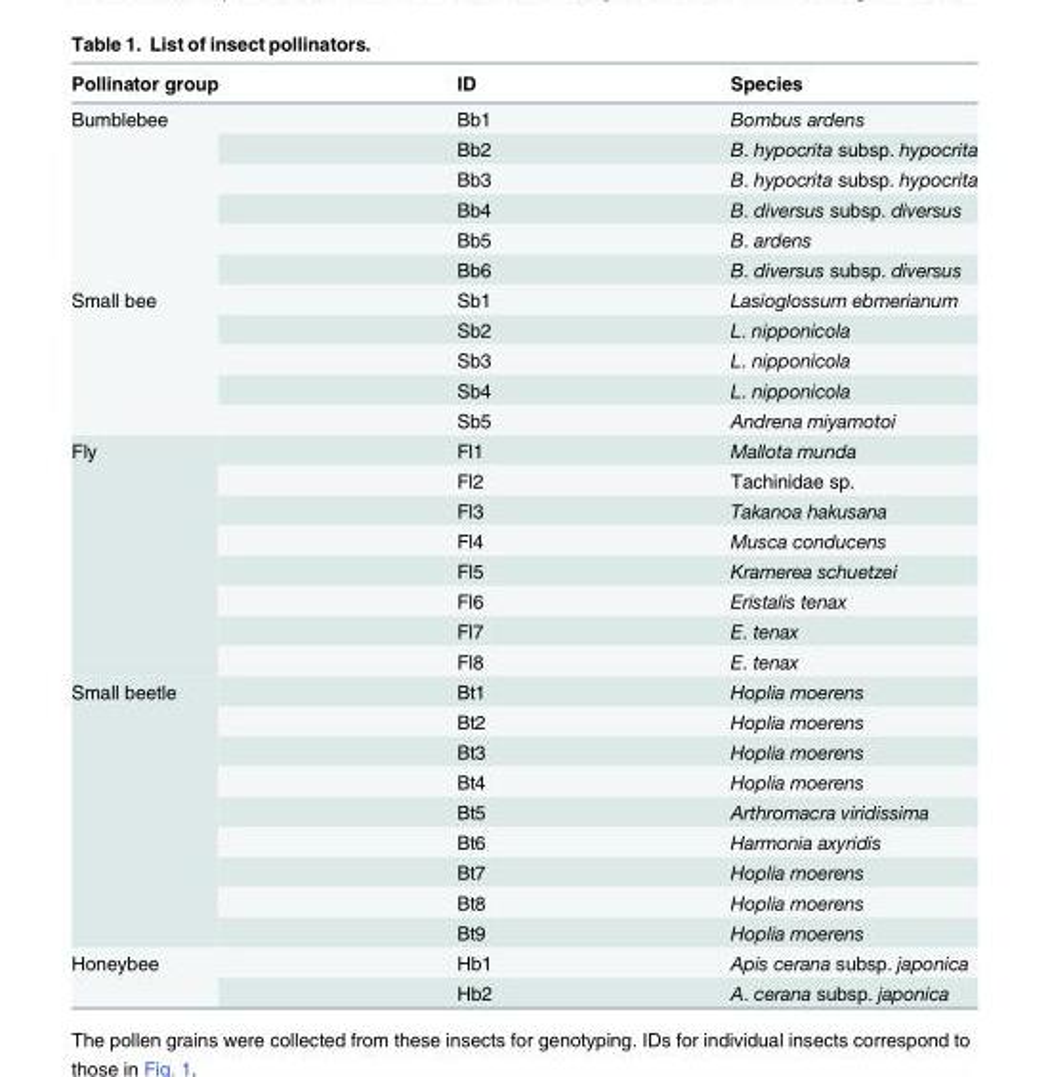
<table><thead><tr><td>Pollinator group</td><td>ID</td><td>Species</td></tr></thead><tbody><tr><td rowspan="6">Bumblebee</td><td>Bb1</td><td>Bombus ardens</td></tr><tr><td>Bb2</td><td>B. hypocrita subsp. hypocrita</td></tr><tr><td>Bb3</td><td>B. hypocrita subsp. hypocrita</td></tr><tr><td>Bb4</td><td>B. diversus subsp. diversus</td></tr><tr><td>Bb5</td><td>B. ardens</td></tr><tr><td>Bb6</td><td>B. diversus subsp. diversus</td></tr><tr><td rowspan="5">Small bee</td><td>Sb1</td><td>Lasioglossum ebmerianum</td></tr><tr><td>Sb2</td><td>L. nipponicola</td></tr><tr><td>Sb3</td><td>L. nipponicola</td></tr><tr><td>Sb4</td><td>L. nipponicola</td></tr><tr><td>Sb5</td><td>Andrena miyamotoi</td></tr><tr><td rowspan="8">Fly</td><td>Fl1</td><td>Mallota munda</td></tr><tr><td>Fl2</td><td>Tachinidae sp.</td></tr><tr><td>Fl3</td><td>Takanoa hakusana</td></tr><tr><td>Fl4</td><td>Musca conducens</td></tr><tr><td>Fl5</td><td>Kramerea schuetzei</td></tr><tr><td>Fl6</td><td>Eristalis tenax</td></tr><tr><td>Fl7</td><td>E. tenax</td></tr><tr><td>Fl8</td><td>E. tenax</td></tr><tr><td rowspan="9">Small beetle</td><td>Bt1</td><td>Hoplia moerens</td></tr><tr><td>Bt2</td><td>Hoplia moerens</td></tr><tr><td>Bt3</td><td>Hoplia moerens</td></tr><tr><td>Bt4</td><td>Hoplia moerens</td></tr><tr><td>Bt5</td><td>Arthromacra viridissima</td></tr><tr><td>Bt6</td><td>Harmonia axyridis</td></tr><tr><td>Bt7</td><td>Hoplia moerens</td></tr><tr><td>Bt8</td><td>Hoplia moerens</td></tr><tr><td>Bt9</td><td>Hoplia moerens</td></tr><tr><td rowspan="2">Honeybee</td><td>Hb1</td><td>Apis cerana subsp. japonica</td></tr><tr><td>Hb2</td><td>A. cerana subsp. japonica</td></tr></tbody></table>